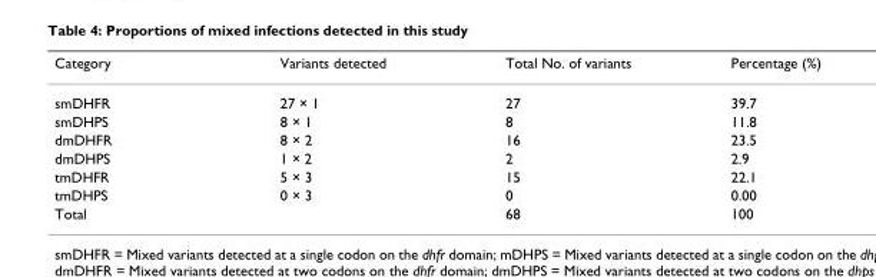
<table><thead><tr><td>Category</td><td>Variants detected</td><td>Total No. of variants</td><td>Percentage (%)</td></tr></thead><tbody><tr><td>smDHFR</td><td>27 × 1</td><td>27</td><td>39.7</td></tr><tr><td>smDHPS</td><td>8 × 1</td><td>8</td><td>11.8</td></tr><tr><td>dmDHFR</td><td>8 × 2</td><td>16</td><td>23.5</td></tr><tr><td>dmDHPS</td><td>1 × 2</td><td>2</td><td>2.9</td></tr><tr><td>tmDHFR</td><td>5 × 3</td><td>15</td><td>22.1</td></tr><tr><td>tmDHPS</td><td>0 × 3</td><td>0</td><td>0.00</td></tr><tr><td>Total</td><td></td><td>68</td><td>100</td></tr></tbody></table>